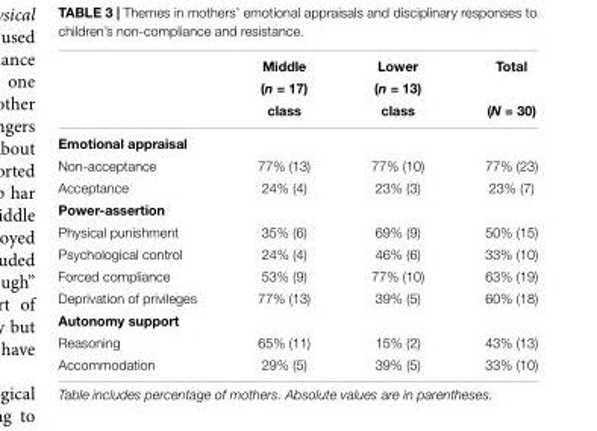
<table><thead><tr><td rowspan="3"></td><td rowspan="3">Middle (n = 17) class</td><td rowspan="3">Lower (n = 13) class</td><td rowspan="3">Total (N = 30)</td></tr><tr></tr><tr></tr></thead><tbody><tr><td colspan="4">Emotional appraisal</td></tr><tr><td>Non-acceptance</td><td>77% (13)</td><td>77% (10)</td><td>77% (23)</td></tr><tr><td>Acceptance</td><td>24% (4)</td><td>23% (3)</td><td>23% (7)</td></tr><tr><td colspan="4">Power-assertion</td></tr><tr><td>Physical punishment</td><td>35% (6)</td><td>69% (9)</td><td>50% (15)</td></tr><tr><td>Psychological control</td><td>24% (4)</td><td>46% (6)</td><td>33% (10)</td></tr><tr><td>Forced compliance</td><td>53% (9)</td><td>77% (10)</td><td>63% (19)</td></tr><tr><td>Deprivation of privileges</td><td>77% (13)</td><td>39% (5)</td><td>60% (18)</td></tr><tr><td colspan="4">Autonomy support</td></tr><tr><td>Reasoning</td><td>65% (11)</td><td>15% (2)</td><td>43% (13)</td></tr><tr><td>Accommodation</td><td>29% (5)</td><td>39% (5)</td><td>33% (10)</td></tr></tbody></table>